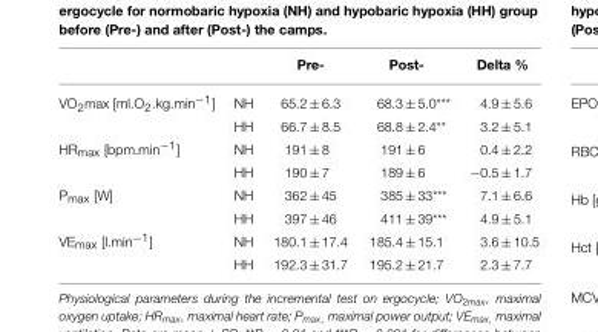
<table><thead><tr><td></td><td></td><td>Pre-</td><td>Post-</td><td>Delta %</td></tr></thead><tbody><tr><td rowspan="2">VO<sub>2</sub>max [ml.O<sub>2</sub>.kg.min<sup>−1</sup>]</td><td>NH</td><td>65.2 ± 6.3</td><td>68.3 ± 5.0***</td><td>4.9 ± 5.6</td></tr><tr><td>HH</td><td>66.7 ± 8.5</td><td>68.8 ± 2.4**</td><td>3.2 ± 5.1</td></tr><tr><td rowspan="2">HR<sub>max</sub> [bpm.min<sup>−1</sup>]</td><td>NH</td><td>191 ± 8</td><td>191 ± 6</td><td>0.4 ± 2.2</td></tr><tr><td>HH</td><td>190 ± 7</td><td>189 ± 6</td><td>−0.5 ± 1.7</td></tr><tr><td rowspan="2">P<sub>max</sub> [W]</td><td>NH</td><td>362 ± 45</td><td>385 ± 33***</td><td>7.1 ± 6.6</td></tr><tr><td>HH</td><td>397 ± 46</td><td>411 ± 39***</td><td>4.9 ± 5.1</td></tr><tr><td rowspan="2">VE<sub>max</sub> [l.min<sup>−1</sup>]</td><td>NH</td><td>180.1 ± 17.4</td><td>185.4 ± 15.1</td><td>3.6 ± 10.5</td></tr><tr><td>HH</td><td>192.3 ± 31.7</td><td>195.2 ± 21.7</td><td>2.3 ± 7.7</td></tr></tbody></table>